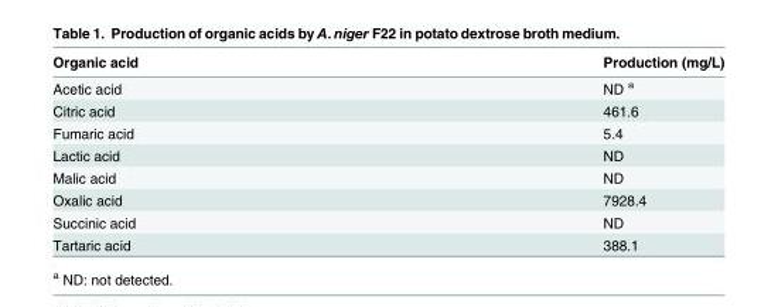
<table><thead><tr><td>Organic acid</td><td>Production (mg/L)</td></tr></thead><tbody><tr><td>Acetic acid</td><td>ND <sup>a</sup></td></tr><tr><td>Citric acid</td><td>461.6</td></tr><tr><td>Fumaric acid</td><td>5.4</td></tr><tr><td>Lactic acid</td><td>ND</td></tr><tr><td>Malic acid</td><td>ND</td></tr><tr><td>Oxalic acid</td><td>7928.4</td></tr><tr><td>Succinic acid</td><td>ND</td></tr><tr><td>Tartaric acid</td><td>388.1</td></tr></tbody></table>